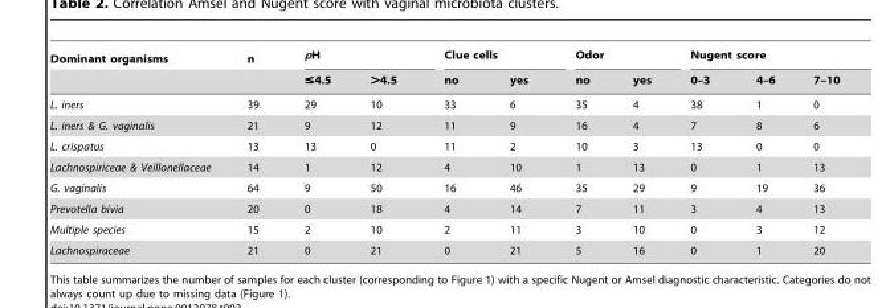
<table><thead><tr><td rowspan="2">Dominant organisms</td><td rowspan="2">n</td><td colspan="2">pH</td><td colspan="2">Clue cells</td><td colspan="2">Odor</td><td colspan="3">Nugent score</td></tr><tr><td>≤4.5</td><td>&gt;4.5</td><td>no</td><td>yes</td><td>no</td><td>yes</td><td>0–3</td><td>4–6</td><td>7–10</td></tr></thead><tbody><tr><td>L. iners</td><td>39</td><td>29</td><td>10</td><td>33</td><td>6</td><td>35</td><td>4</td><td>38</td><td>1</td><td>0</td></tr><tr><td>L. iners &amp; G. vaginalis</td><td>21</td><td>9</td><td>12</td><td>11</td><td>9</td><td>16</td><td>4</td><td>7</td><td>8</td><td>6</td></tr><tr><td>L. crispatus</td><td>13</td><td>13</td><td>0</td><td>11</td><td>2</td><td>10</td><td>3</td><td>13</td><td>0</td><td>0</td></tr><tr><td>Lachnospiriceae &amp; Veillonellaceae</td><td>14</td><td>1</td><td>12</td><td>4</td><td>10</td><td>1</td><td>13</td><td>0</td><td>1</td><td>13</td></tr><tr><td>G. vaginalis</td><td>64</td><td>9</td><td>50</td><td>16</td><td>46</td><td>35</td><td>29</td><td>9</td><td>19</td><td>36</td></tr><tr><td>Prevotella bivia</td><td>20</td><td>0</td><td>18</td><td>4</td><td>14</td><td>7</td><td>11</td><td>3</td><td>4</td><td>13</td></tr><tr><td>Multiple species</td><td>15</td><td>2</td><td>10</td><td>2</td><td>11</td><td>3</td><td>10</td><td>0</td><td>3</td><td>12</td></tr><tr><td>Lachnospiraceae</td><td>21</td><td>0</td><td>21</td><td>0</td><td>21</td><td>5</td><td>16</td><td>0</td><td>1</td><td>20</td></tr></tbody></table>